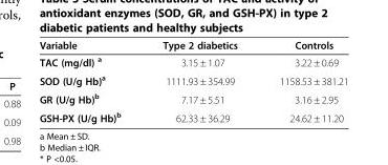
<table><thead><tr><td>Variable</td><td>Type 2 diabetics</td><td>Controls</td></tr></thead><tbody><tr><td>TAC (mg/dl) <sup>a</sup></td><td>3.15 ± 1.07</td><td>3.22 ± 0.69</td></tr><tr><td>SOD (U/g Hb)<sup>a</sup></td><td>1111.93 ± 354.99</td><td>1158.53 ± 381.21</td></tr><tr><td>GR (U/g Hb)<sup>b</sup></td><td>7.17 ± 5.51</td><td>3.16 ± 2.95</td></tr><tr><td>GSH-PX (U/g Hb)<sup>b</sup></td><td>62.33 ± 36.29</td><td>24.62 ± 11.20</td></tr></tbody></table>